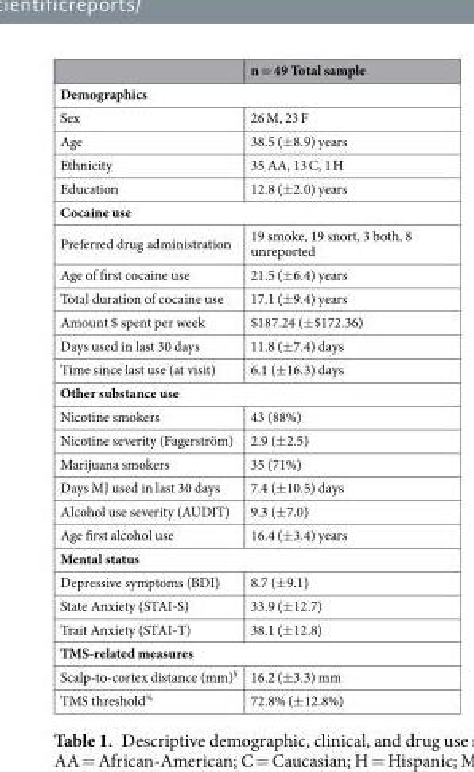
<table><thead><tr><td></td><td>n = 49 Total sample</td></tr></thead><tbody><tr><td colspan="2">Demographics</td></tr><tr><td>Sex</td><td>26 M, 23 F</td></tr><tr><td>Age</td><td>38.5 (±8.9) years</td></tr><tr><td>Ethnicity</td><td>35 AA, 13 C, 1 H</td></tr><tr><td>Education</td><td>12.8 (±2.0) years</td></tr><tr><td colspan="2">Cocaine use</td></tr><tr><td>Preferred drug administration</td><td>19 smoke, 19 snort, 3 both, 8 unreported</td></tr><tr><td>Age of first cocaine use</td><td>21.5 (±6.4) years</td></tr><tr><td>Total duration of cocaine use</td><td>17.1 (±9.4) years</td></tr><tr><td>Amount $ spent per week</td><td>$187.24 (±$172.36)</td></tr><tr><td>Days used in last 30 days</td><td>11.8 (±7.4) days</td></tr><tr><td>Time since last use (at visit)</td><td>6.1 (±16.3) days</td></tr><tr><td colspan="2">Other substance use</td></tr><tr><td>Nicotine smokers</td><td>43 (88%)</td></tr><tr><td>Nicotine severity (Fagerström)</td><td>2.9 (±2.5)</td></tr><tr><td>Marijuana smokers</td><td>35 (71%)</td></tr><tr><td>Days MJ used in last 30 days</td><td>7.4 (±10.5) days</td></tr><tr><td>Alcohol use severity (AUDIT)</td><td>9.3 (±7.0)</td></tr><tr><td>Age first alcohol use</td><td>16.4 (±3.4) years</td></tr><tr><td colspan="2">Mental status</td></tr><tr><td>Depressive symptoms (BDI)</td><td>8.7 (±9.1)</td></tr><tr><td>State Anxiety (STAI-S)</td><td>33.9 (±12.7)</td></tr><tr><td>Trait Anxiety (STAI-T)</td><td>38.1 (±12.8)</td></tr><tr><td colspan="2">TMS-related measures</td></tr><tr><td>Scalp-to-cortex distance (mm)<sup>¥</sup></td><td>16.2 (±3.3) mm</td></tr><tr><td>TMS threshold<sup>%</sup></td><td>72.8% (±12.8%)</td></tr></tbody></table>